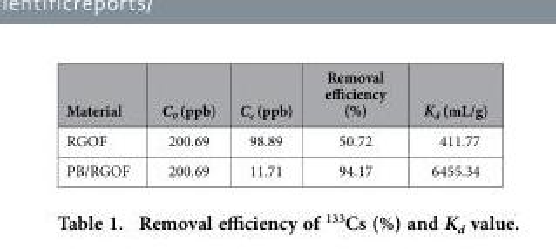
<table><thead><tr><td>Material</td><td>C<sub>0</sub> (ppb)</td><td>C<sub>e</sub> (ppb)</td><td>Removal efficiency (%)</td><td>K<sub>d</sub> (mL/g)</td></tr></thead><tbody><tr><td>RGOF</td><td>200.69</td><td>98.89</td><td>50.72</td><td>411.77</td></tr><tr><td>PB/RGOF</td><td>200.69</td><td>11.71</td><td>94.17</td><td>6455.34</td></tr></tbody></table>